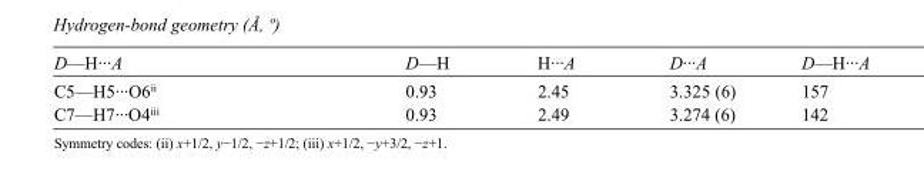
<table><tbody><tr><td>D—H···A</td><td>D—H</td><td>H···A</td><td>D···A</td><td>D—H···A</td></tr><tr><td>C5—H5···O6<sup>ii</sup></td><td>0.93</td><td>2.45</td><td>3.325 (6)</td><td>157</td></tr><tr><td>C7—H7···O4<sup>iii</sup></td><td>0.93</td><td>2.49</td><td>3.274 (6)</td><td>142</td></tr></tbody></table>